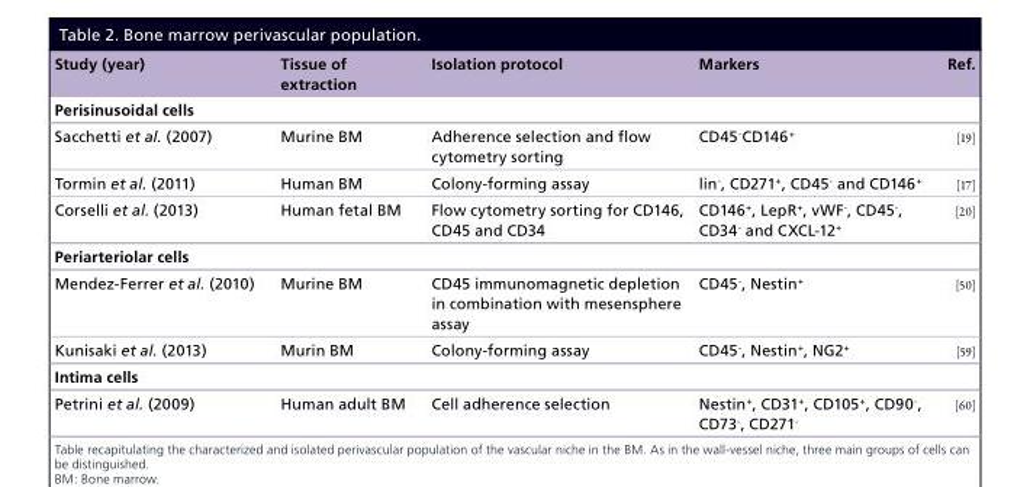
<table><thead><tr><td>Study (year)</td><td>Tissue of extraction</td><td>Isolation protocol</td><td>Markers</td><td>Ref.</td></tr></thead><tbody><tr><td colspan="5">Perisinusoidal cells</td></tr><tr><td>Sacchetti et al. (2007)</td><td>Murine BM</td><td>Adherence selection and flow cytometry sorting</td><td>CD45<sup>-</sup>CD146<sup>+</sup></td><td>[19]</td></tr><tr><td>Tormin et al. (2011)</td><td>Human BM</td><td>Colony-forming assay</td><td>lin<sup>-</sup>, CD271<sup>+</sup>, CD45<sup>-</sup> and CD146<sup>+</sup></td><td>[17]</td></tr><tr><td>Corselli et al. (2013)</td><td>Human fetal BM</td><td>Flow cytometry sorting for CD146, CD45 and CD34</td><td>CD146<sup>+</sup>, LepR<sup>+</sup>, vWF<sup>-</sup>, CD45<sup>-</sup>, CD34<sup>-</sup> and CXCL-12<sup>+</sup></td><td>[20]</td></tr><tr><td colspan="5">Periarteriolar cells</td></tr><tr><td>Mendez-Ferrer et al. (2010)</td><td>Murine BM</td><td>CD45 immunomagnetic depletion in combination with mesensphere assay</td><td>CD45<sup>-</sup>, Nestin<sup>+</sup></td><td>[50]</td></tr><tr><td>Kunisaki et al. (2013)</td><td>Murin BM</td><td>Colony-forming assay</td><td>CD45<sup>-</sup>, Nestin<sup>+</sup>, NG2<sup>+</sup></td><td>[59]</td></tr><tr><td colspan="5">Intima cells</td></tr><tr><td>Petrini et al. (2009)</td><td>Human adult BM</td><td>Cell adherence selection</td><td>Nestin<sup>+</sup>, CD31<sup>+</sup>, CD105<sup>+</sup>, CD90<sup>-</sup>, CD73<sup>-</sup>, CD271<sup>-</sup></td><td>[60]</td></tr></tbody></table>